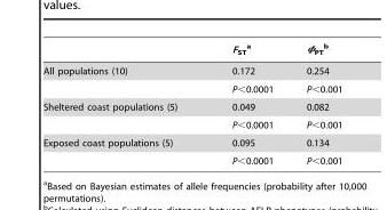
<table><thead><tr><td></td><td>F<sub>ST</sub> a</td><td>Φ<sub>PT</sub> b</td></tr></thead><tbody><tr><td rowspan="2">All populations (10)</td><td>0.172</td><td>0.254</td></tr><tr><td>P&lt;0.0001</td><td>P&lt;0.001</td></tr><tr><td rowspan="2">Sheltered coast populations (5)</td><td>0.049</td><td>0.082</td></tr><tr><td>P&lt;0.0001</td><td>P&lt;0.001</td></tr><tr><td rowspan="2">Exposed coast populations (5)</td><td>0.095</td><td>0.134</td></tr><tr><td>P&lt;0.0001</td><td>P&lt;0.001</td></tr></tbody></table>